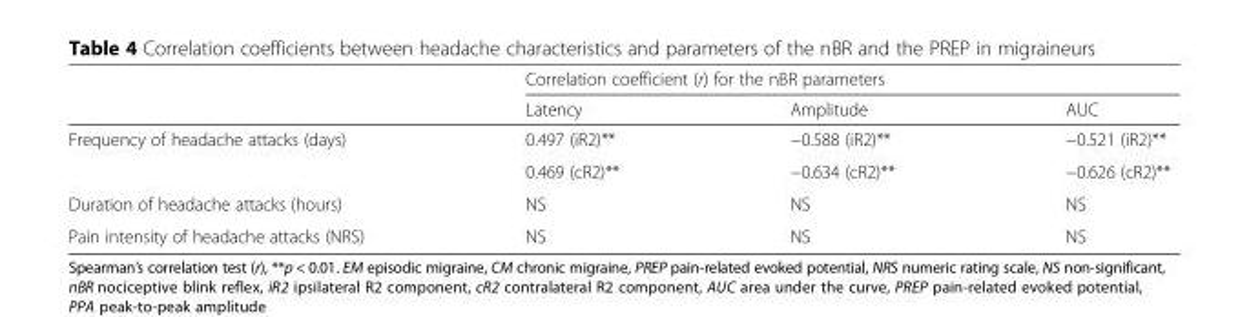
<table><thead><tr><td rowspan="2"></td><td colspan="3">Correlation coefficient (r) for the nBR parameters</td></tr><tr><td>Latency</td><td>Amplitude</td><td>AUC</td></tr></thead><tbody><tr><td rowspan="2">Frequency of headache attacks (days)</td><td>0.497 (iR2)**</td><td>−0.588 (iR2)**</td><td>−0.521 (iR2)**</td></tr><tr><td>0.469 (cR2)**</td><td>−0.634 (cR2)**</td><td>−0.626 (cR2)**</td></tr><tr><td>Duration of headache attacks (hours)</td><td>NS</td><td>NS</td><td>NS</td></tr><tr><td>Pain intensity of headache attacks (NRS)</td><td>NS</td><td>NS</td><td>NS</td></tr></tbody></table>